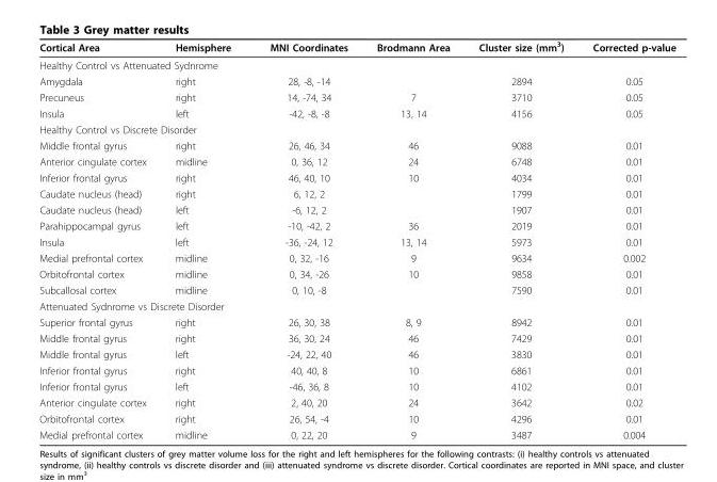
<table><thead><tr><td>Cortical Area</td><td>Hemisphere</td><td>MNI Coordinates</td><td>Brodmann Area</td><td>Cluster size (mm<sup>3</sup>)</td><td>Corrected p-value</td></tr></thead><tbody><tr><td colspan="6">Healthy Control vs Attenuated Sydnrome</td></tr><tr><td>Amygdala</td><td>right</td><td>28, -8, -14</td><td></td><td>2894</td><td>0.05</td></tr><tr><td>Precuneus</td><td>right</td><td>14, -74, 34</td><td>7</td><td>3710</td><td>0.05</td></tr><tr><td>Insula</td><td>left</td><td>-42, -8, -8</td><td>13, 14</td><td>4156</td><td>0.05</td></tr><tr><td colspan="6">Healthy Control vs Discrete Disorder</td></tr><tr><td>Middle frontal gyrus</td><td>right</td><td>26, 46, 34</td><td>46</td><td>9088</td><td>0.01</td></tr><tr><td>Anterior cingulate cortex</td><td>midline</td><td>0, 36, 12</td><td>24</td><td>6748</td><td>0.01</td></tr><tr><td>Inferior frontal gyrus</td><td>right</td><td>46, 40, 10</td><td>10</td><td>4034</td><td>0.01</td></tr><tr><td>Caudate nucleus (head)</td><td>right</td><td>6, 12, 2</td><td></td><td>1799</td><td>0.01</td></tr><tr><td>Caudate nucleus (head)</td><td>left</td><td>-6, 12, 2</td><td></td><td>1907</td><td>0.01</td></tr><tr><td>Parahippocampal gyrus</td><td>left</td><td>-10, -42, 2</td><td>36</td><td>2019</td><td>0.01</td></tr><tr><td>Insula</td><td>left</td><td>-36, -24, 12</td><td>13, 14</td><td>5973</td><td>0.01</td></tr><tr><td>Medial prefrontal cortex</td><td>midline</td><td>0, 32, -16</td><td>9</td><td>9634</td><td>0.002</td></tr><tr><td>Orbitofrontal cortex</td><td>midline</td><td>0, 34, -26</td><td>10</td><td>9858</td><td>0.01</td></tr><tr><td>Subcallosal cortex</td><td>midline</td><td>0, 10, -8</td><td></td><td>7590</td><td>0.01</td></tr><tr><td colspan="6">Attenuated Sydnrome vs Discrete Disorder</td></tr><tr><td>Superior frontal gyrus</td><td>right</td><td>26, 30, 38</td><td>8, 9</td><td>8942</td><td>0.01</td></tr><tr><td>Middle frontal gyrus</td><td>right</td><td>36, 30, 24</td><td>46</td><td>7429</td><td>0.01</td></tr><tr><td>Middle frontal gyrus</td><td>left</td><td>-24, 22, 40</td><td>46</td><td>3830</td><td>0.01</td></tr><tr><td>Inferior frontal gyrus</td><td>right</td><td>40, 40, 8</td><td>10</td><td>6861</td><td>0.01</td></tr><tr><td>Inferior frontal gyrus</td><td>left</td><td>-46, 36, 8</td><td>10</td><td>4102</td><td>0.01</td></tr><tr><td>Anterior cingulate cortex</td><td>right</td><td>2, 40, 20</td><td>24</td><td>3642</td><td>0.02</td></tr><tr><td>Orbitofrontal cortex</td><td>right</td><td>26, 54, -4</td><td>10</td><td>4296</td><td>0.01</td></tr><tr><td>Medial prefrontal cortex</td><td>midline</td><td>0, 22, 20</td><td>9</td><td>3487</td><td>0.004</td></tr></tbody></table>